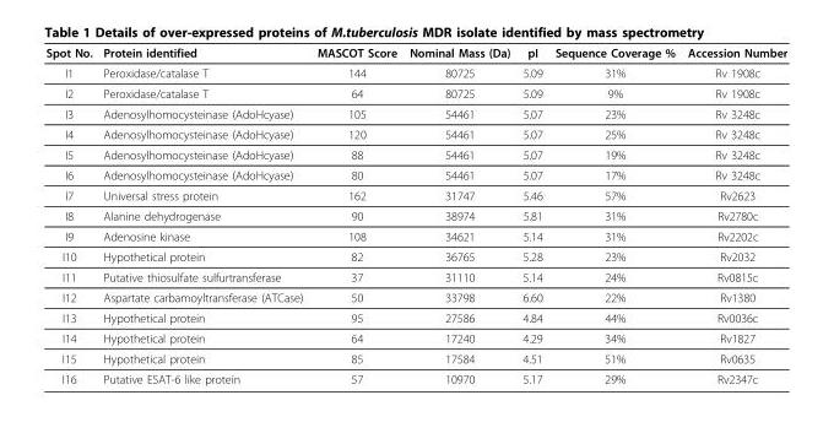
<table><thead><tr><td>Spot No.</td><td>Protein identified</td><td>MASCOT Score</td><td>Nominal Mass (Da)</td><td>pI</td><td>Sequence Coverage %</td><td>Accession Number</td></tr></thead><tbody><tr><td>I1</td><td>Peroxidase/catalase T</td><td>144</td><td>80725</td><td>5.09</td><td>31%</td><td>Rv 1908c</td></tr><tr><td>I2</td><td>Peroxidase/catalase T</td><td>64</td><td>80725</td><td>5.09</td><td>9%</td><td>Rv 1908c</td></tr><tr><td>I3</td><td>Adenosylhomocysteinase (AdoHcyase)</td><td>105</td><td>54461</td><td>5.07</td><td>23%</td><td>Rv 3248c</td></tr><tr><td>I4</td><td>Adenosylhomocysteinase (AdoHcyase)</td><td>120</td><td>54461</td><td>5.07</td><td>25%</td><td>Rv 3248c</td></tr><tr><td>I5</td><td>Adenosylhomocysteinase (AdoHcyase)</td><td>88</td><td>54461</td><td>5.07</td><td>19%</td><td>Rv 3248c</td></tr><tr><td>I6</td><td>Adenosylhomocysteinase (AdoHcyase)</td><td>80</td><td>54461</td><td>5.07</td><td>17%</td><td>Rv 3248c</td></tr><tr><td>I7</td><td>Universal stress protein</td><td>162</td><td>31747</td><td>5.46</td><td>57%</td><td>Rv2623</td></tr><tr><td>I8</td><td>Alanine dehydrogenase</td><td>90</td><td>38974</td><td>5.81</td><td>31%</td><td>Rv2780c</td></tr><tr><td>I9</td><td>Adenosine kinase</td><td>108</td><td>34621</td><td>5.14</td><td>31%</td><td>Rv2202c</td></tr><tr><td>I10</td><td>Hypothetical protein</td><td>82</td><td>36765</td><td>5.28</td><td>23%</td><td>Rv2032</td></tr><tr><td>I11</td><td>Putative thiosulfate sulfurtransferase</td><td>37</td><td>31110</td><td>5.14</td><td>24%</td><td>Rv0815c</td></tr><tr><td>I12</td><td>Aspartate carbamoyltransferase (ATCase)</td><td>50</td><td>33798</td><td>6.60</td><td>22%</td><td>Rv1380</td></tr><tr><td>I13</td><td>Hypothetical protein</td><td>95</td><td>27586</td><td>4.84</td><td>44%</td><td>Rv0036c</td></tr><tr><td>I14</td><td>Hypothetical protein</td><td>64</td><td>17240</td><td>4.29</td><td>34%</td><td>Rv1827</td></tr><tr><td>I15</td><td>Hypothetical protein</td><td>85</td><td>17584</td><td>4.51</td><td>51%</td><td>Rv0635</td></tr><tr><td>I16</td><td>Putative ESAT-6 like protein</td><td>57</td><td>10970</td><td>5.17</td><td>29%</td><td>Rv2347c</td></tr></tbody></table>